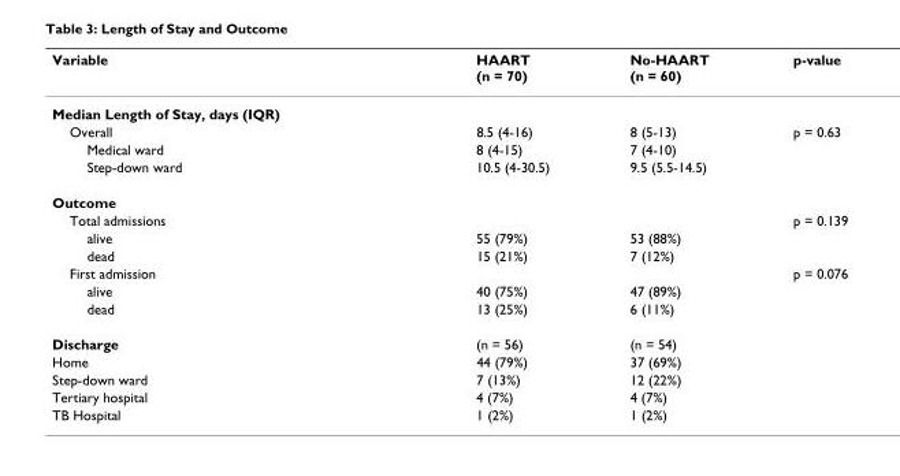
<table><thead><tr><td>Variable</td><td>HAART (n = 70)</td><td>No-HAART (n = 60)</td><td>p-value</td></tr></thead><tbody><tr><td colspan="4">Median Length of Stay, days (IQR)</td></tr><tr><td>Overall</td><td>8.5 (4-16)</td><td>8 (5-13)</td><td>p = 0.63</td></tr><tr><td>Medical ward</td><td>8 (4-15)</td><td>7 (4-10)</td><td></td></tr><tr><td>Step-down ward</td><td>10.5 (4-30.5)</td><td>9.5 (5.5-14.5)</td><td></td></tr><tr><td colspan="4">Outcome</td></tr><tr><td>Total admissions</td><td></td><td></td><td>p = 0.139</td></tr><tr><td>alive</td><td>55 (79%)</td><td>53 (88%)</td><td></td></tr><tr><td>dead</td><td>15 (21%)</td><td>7 (12%)</td><td></td></tr><tr><td>First admission</td><td></td><td></td><td>p = 0.076</td></tr><tr><td>alive</td><td>40 (75%)</td><td>47 (89%)</td><td></td></tr><tr><td>dead</td><td>13 (25%)</td><td>6 (11%)</td><td></td></tr><tr><td>Discharge</td><td>(n = 56)</td><td>(n = 54)</td><td></td></tr><tr><td>Home</td><td>44 (79%)</td><td>37 (69%)</td><td></td></tr><tr><td>Step-down ward</td><td>7 (13%)</td><td>12 (22%)</td><td></td></tr><tr><td>Tertiary hospital</td><td>4 (7%)</td><td>4 (7%)</td><td></td></tr><tr><td>TB Hospital</td><td>1 (2%)</td><td>1 (2%)</td><td></td></tr></tbody></table>